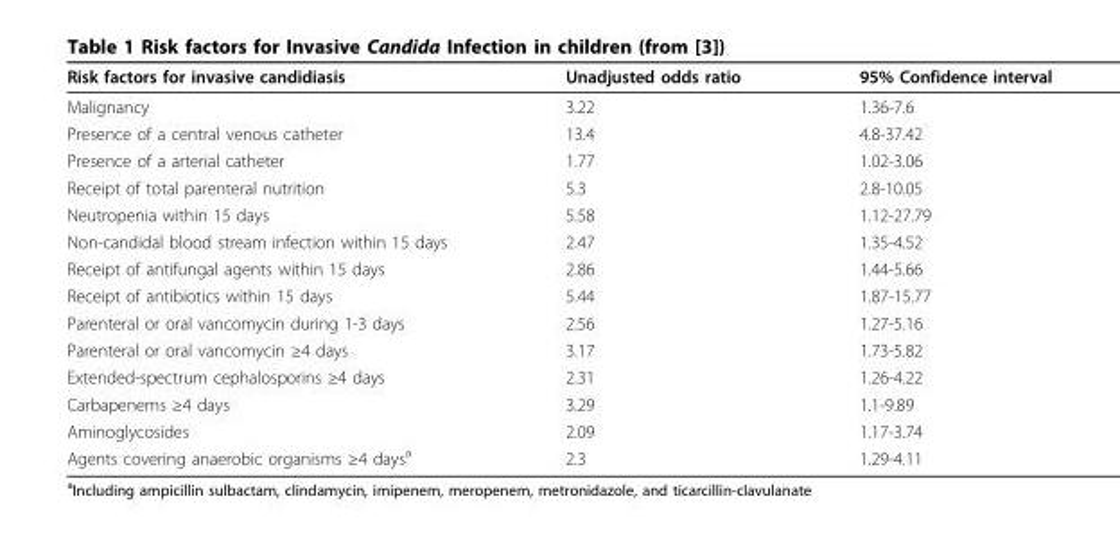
<table><thead><tr><td>Risk factors for invasive candidiasis</td><td>Unadjusted odds ratio</td><td>95% Confidence interval</td></tr></thead><tbody><tr><td>Malignancy</td><td>3.22</td><td>1.36-7.6</td></tr><tr><td>Presence of a central venous catheter</td><td>13.4</td><td>4.8-37.42</td></tr><tr><td>Presence of a arterial catheter</td><td>1.77</td><td>1.02-3.06</td></tr><tr><td>Receipt of total parenteral nutrition</td><td>5.3</td><td>2.8-10.05</td></tr><tr><td>Neutropenia within 15 days</td><td>5.58</td><td>1.12-27.79</td></tr><tr><td>Non-candidal blood stream infection within 15 days</td><td>2.47</td><td>1.35-4.52</td></tr><tr><td>Receipt of antifungal agents within 15 days</td><td>2.86</td><td>1.44-5.66</td></tr><tr><td>Receipt of antibiotics within 15 days</td><td>5.44</td><td>1.87-15.77</td></tr><tr><td>Parenteral or oral vancomycin during 1-3 days</td><td>2.56</td><td>1.27-5.16</td></tr><tr><td>Parenteral or oral vancomycin ≥4 days</td><td>3.17</td><td>1.73-5.82</td></tr><tr><td>Extended-spectrum cephalosporins ≥4 days</td><td>2.31</td><td>1.26-4.22</td></tr><tr><td>Carbapenems ≥4 days</td><td>3.29</td><td>1.1-9.89</td></tr><tr><td>Aminoglycosides</td><td>2.09</td><td>1.17-3.74</td></tr><tr><td>Agents covering anaerobic organisms ≥4 days<sup>a</sup></td><td>2.3</td><td>1.29-4.11</td></tr></tbody></table>